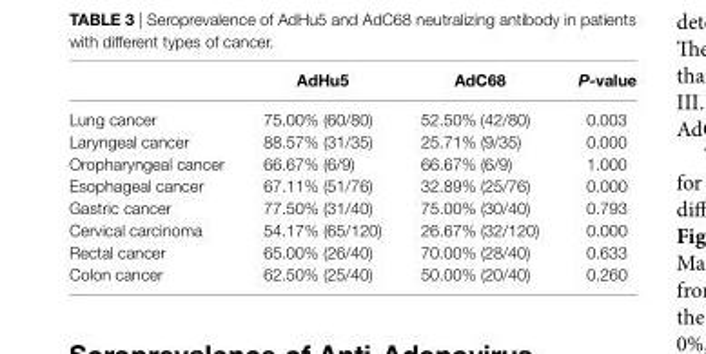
<table><thead><tr><td></td><td>adhu5</td><td>adc68</td><td>P-value</td></tr></thead><tbody><tr><td>Lung cancer</td><td>75.00% (60/80)</td><td>52.50% (42/80)</td><td>0.003</td></tr><tr><td>Laryngeal cancer</td><td>88.57% (31/35)</td><td>25.71% (9/35)</td><td>0.000</td></tr><tr><td>Oropharyngeal cancer</td><td>66.67% (6/9)</td><td>66.67% (6/9)</td><td>1.000</td></tr><tr><td>Esophageal cancer</td><td>67.11% (51/76)</td><td>32.89% (25/76)</td><td>0.000</td></tr><tr><td>Gastric cancer</td><td>77.50% (31/40)</td><td>75.00% (30/40)</td><td>0.793</td></tr><tr><td>Cervical carcinoma</td><td>54.17% (65/120)</td><td>26.67% (32/120)</td><td>0.000</td></tr><tr><td>Rectal cancer</td><td>65.00% (26/40)</td><td>70.00% (28/40)</td><td>0.633</td></tr><tr><td>Colon cancer</td><td>62.50% (25/40)</td><td>50.00% (20/40)</td><td>0.260</td></tr></tbody></table>